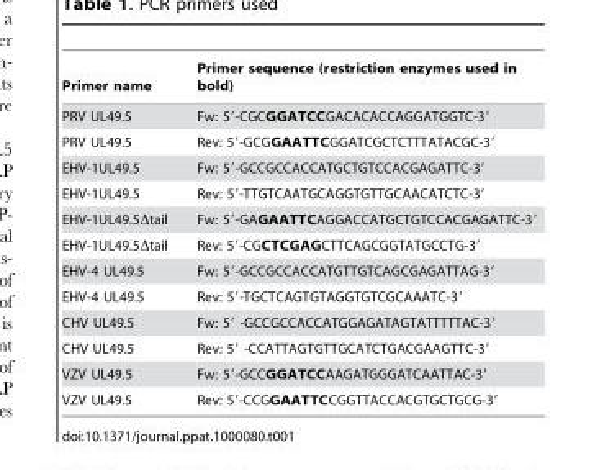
<table><thead><tr><td>Primer name</td><td>Primer sequence (restriction enzymes used in bold)</td></tr></thead><tbody><tr><td>PRV UL49.5</td><td>Fw: 5′-CGCGGATCCGACACACCAGGATGGTC-3′</td></tr><tr><td>PRV UL49.5</td><td>Rev: 5′-GCGGAATTCGGATCGCTCTTTATACGC-3′</td></tr><tr><td>EHV-1UL49.5</td><td>Fw: 5′-GCCGCCACCATGCTGTCCACGAGATTC-3′</td></tr><tr><td>EHV-1UL49.5</td><td>Rev: 5′-TTGTCAATGCAGGTGTTGCAACATCTC-3′</td></tr><tr><td>EHV-1UL49.5Δtail</td><td>Fw: 5′-GAGAATTCAGGACCATGCTGTCCACGAGATTC-3′</td></tr><tr><td>EHV-1UL49.5Δtail</td><td>Rev: 5′-CGCTCGAGCTTCAGCGGTATGCCTG-3′</td></tr><tr><td>EHV-4 UL49.5</td><td>Fw: 5′-GCCGCCACCATGTTGTCAGCGAGATTAG-3′</td></tr><tr><td>EHV-4 UL49.5</td><td>Rev: 5′-TGCTCAGTGTAGGTGTCGCAAATC-3′</td></tr><tr><td>CHV UL49.5</td><td>Fw: 5′ -GCCGCCACCATGGAGATAGTATTTTTAC-3′</td></tr><tr><td>CHV UL49.5</td><td>Rev: 5′ -CCATTAGTGTTGCATCTGACGAAGTTC-3′</td></tr><tr><td>VZV UL49.5</td><td>Fw: 5′-GCCGGATCCAAGATGGGATCAATTAC-3′</td></tr><tr><td>VZV UL49.5</td><td>Rev: 5′-CCGGAATTCCGGTTACCACGTGCTGCG-3′</td></tr></tbody></table>